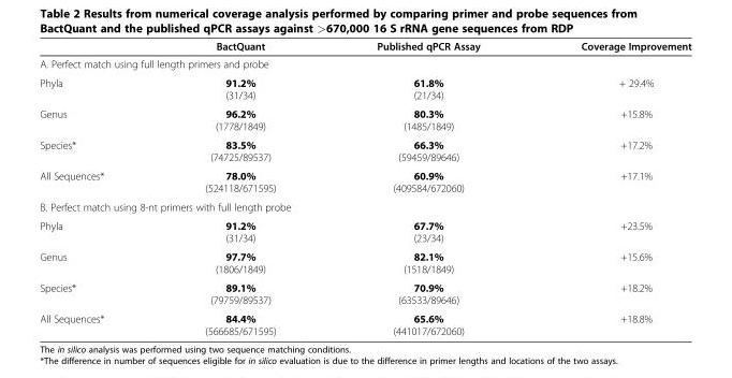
<table><thead><tr><td></td><td>BactQuant</td><td>Published qPCR Assay</td><td>Coverage Improvement</td></tr></thead><tbody><tr><td colspan="4">A. Perfect match using full length primers and probe</td></tr><tr><td>Phyla</td><td>91.2% (31/34)</td><td>61.8% (21/34)</td><td>+ 29.4%</td></tr><tr><td>Genus</td><td>96.2% (1778/1849)</td><td>80.3% (1485/1849)</td><td>+15.8%</td></tr><tr><td>Species*</td><td>83.5% (74725/89537)</td><td>66.3% (59459/89646)</td><td>+17.2%</td></tr><tr><td>All Sequences*</td><td>78.0% (524118/671595)</td><td>60.9% (409584/672060)</td><td>+17.1%</td></tr><tr><td colspan="4">B. Perfect match using 8-nt primers with full length probe</td></tr><tr><td>Phyla</td><td>91.2% (31/34)</td><td>67.7% (23/34)</td><td>+23.5%</td></tr><tr><td>Genus</td><td>97.7% (1806/1849)</td><td>82.1% (1518/1849)</td><td>+15.6%</td></tr><tr><td>Species*</td><td>89.1% (79759/89537)</td><td>70.9% (63533/89646)</td><td>+18.2%</td></tr><tr><td>All Sequences*</td><td>84.4% (566685/671595)</td><td>65.6% (441017/672060)</td><td>+18.8%</td></tr></tbody></table>